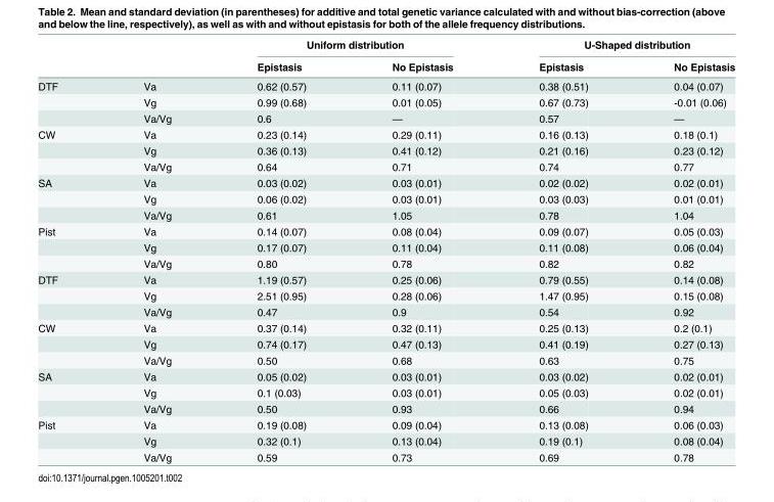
<table><thead><tr><td rowspan="2"></td><td rowspan="2"></td><td colspan="2">Uniform distribution</td><td colspan="2">U-Shaped distribution</td></tr><tr><td>Epistasis</td><td>No Epistasis</td><td>Epistasis</td><td>No Epistasis</td></tr></thead><tbody><tr><td rowspan="3">DTF</td><td>Va</td><td>0.62 (0.57)</td><td>0.11 (0.07)</td><td>0.38 (0.51)</td><td>0.04 (0.07)</td></tr><tr><td>Vg</td><td>0.99 (0.68)</td><td>0.01 (0.05)</td><td>0.67 (0.73)</td><td>-0.01 (0.06)</td></tr><tr><td>Va/Vg</td><td>0.6</td><td>—</td><td>0.57</td><td>—</td></tr><tr><td rowspan="3">CW</td><td>Va</td><td>0.23 (0.14)</td><td>0.29 (0.11)</td><td>0.16 (0.13)</td><td>0.18 (0.1)</td></tr><tr><td>Vg</td><td>0.36 (0.13)</td><td>0.41 (0.12)</td><td>0.21 (0.16)</td><td>0.23 (0.12)</td></tr><tr><td>Va/Vg</td><td>0.64</td><td>0.71</td><td>0.74</td><td>0.77</td></tr><tr><td rowspan="3">SA</td><td>Va</td><td>0.03 (0.02)</td><td>0.03 (0.01)</td><td>0.02 (0.02)</td><td>0.02 (0.01)</td></tr><tr><td>Vg</td><td>0.06 (0.02)</td><td>0.03 (0.01)</td><td>0.03 (0.03)</td><td>0.01 (0.01)</td></tr><tr><td>Va/Vg</td><td>0.61</td><td>1.05</td><td>0.78</td><td>1.04</td></tr><tr><td rowspan="3">Pist</td><td>Va</td><td>0.14 (0.07)</td><td>0.08 (0.04)</td><td>0.09 (0.07)</td><td>0.05 (0.03)</td></tr><tr><td>Vg</td><td>0.17 (0.07)</td><td>0.11 (0.04)</td><td>0.11 (0.08)</td><td>0.06 (0.04)</td></tr><tr><td>Va/Vg</td><td>0.80</td><td>0.78</td><td>0.82</td><td>0.82</td></tr><tr><td rowspan="3">DTF</td><td>Va</td><td>1.19 (0.57)</td><td>0.25 (0.06)</td><td>0.79 (0.55)</td><td>0.14 (0.08)</td></tr><tr><td>Vg</td><td>2.51 (0.95)</td><td>0.28 (0.06)</td><td>1.47 (0.95)</td><td>0.15 (0.08)</td></tr><tr><td>Va/Vg</td><td>0.47</td><td>0.9</td><td>0.54</td><td>0.92</td></tr><tr><td rowspan="3">CW</td><td>Va</td><td>0.37 (0.14)</td><td>0.32 (0.11)</td><td>0.25 (0.13)</td><td>0.2 (0.1)</td></tr><tr><td>Vg</td><td>0.74 (0.17)</td><td>0.47 (0.13)</td><td>0.41 (0.19)</td><td>0.27 (0.13)</td></tr><tr><td>Va/Vg</td><td>0.50</td><td>0.68</td><td>0.63</td><td>0.75</td></tr><tr><td rowspan="3">SA</td><td>Va</td><td>0.05 (0.02)</td><td>0.03 (0.01)</td><td>0.03 (0.02)</td><td>0.02 (0.01)</td></tr><tr><td>Vg</td><td>0.1 (0.03)</td><td>0.03 (0.01)</td><td>0.05 (0.03)</td><td>0.02 (0.01)</td></tr><tr><td>Va/Vg</td><td>0.50</td><td>0.93</td><td>0.66</td><td>0.94</td></tr><tr><td rowspan="3">Pist</td><td>Va</td><td>0.19 (0.08)</td><td>0.09 (0.04)</td><td>0.13 (0.08)</td><td>0.06 (0.03)</td></tr><tr><td>Vg</td><td>0.32 (0.1)</td><td>0.13 (0.04)</td><td>0.19 (0.1)</td><td>0.08 (0.04)</td></tr><tr><td>Va/Vg</td><td>0.59</td><td>0.73</td><td>0.69</td><td>0.78</td></tr></tbody></table>